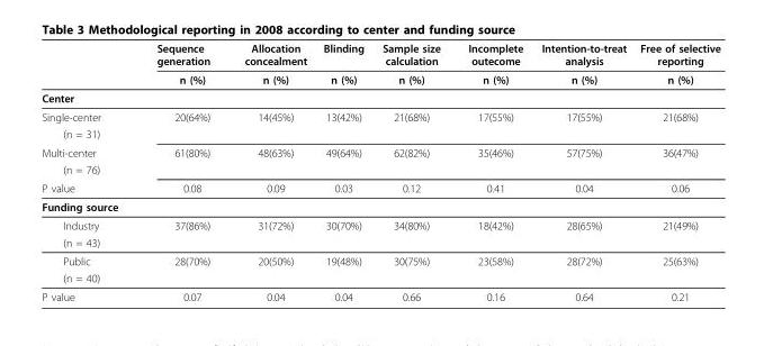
<table><thead><tr><td rowspan="2"></td><td rowspan="2">Sequence generation n (%)</td><td rowspan="2">Allocation concealment n (%)</td><td rowspan="2">Blinding n (%)</td><td rowspan="2">Sample size calculation n (%)</td><td rowspan="2">Incomplete outecome n (%)</td><td rowspan="2">Intention-to-treat analysis n (%)</td><td rowspan="2">Free of selective reporting n (%)</td></tr><tr></tr></thead><tbody><tr><td colspan="8">Center</td></tr><tr><td>Single-center</td><td>20(64%)</td><td>14(45%)</td><td>13(42%)</td><td>21(68%)</td><td>17(55%)</td><td>17(55%)</td><td>21(68%)</td></tr><tr><td colspan="8">(n = 31)</td></tr><tr><td>Multi-center</td><td>61(80%)</td><td>48(63%)</td><td>49(64%)</td><td>62(82%)</td><td>35(46%)</td><td>57(75%)</td><td>36(47%)</td></tr><tr><td colspan="8">(n = 76)</td></tr><tr><td>P value</td><td>0.08</td><td>0.09</td><td>0.03</td><td>0.12</td><td>0.41</td><td>0.04</td><td>0.06</td></tr><tr><td colspan="8">Funding source</td></tr><tr><td>Industry</td><td>37(86%)</td><td>31(72%)</td><td>30(70%)</td><td>34(80%)</td><td>18(42%)</td><td>28(65%)</td><td>21(49%)</td></tr><tr><td colspan="8">(n = 43)</td></tr><tr><td>Public</td><td>28(70%)</td><td>20(50%)</td><td>19(48%)</td><td>30(75%)</td><td>23(58%)</td><td>28(72%)</td><td>25(63%)</td></tr><tr><td colspan="8">(n = 40)</td></tr><tr><td>P value</td><td>0.07</td><td>0.04</td><td>0.04</td><td>0.66</td><td>0.16</td><td>0.64</td><td>0.21</td></tr></tbody></table>